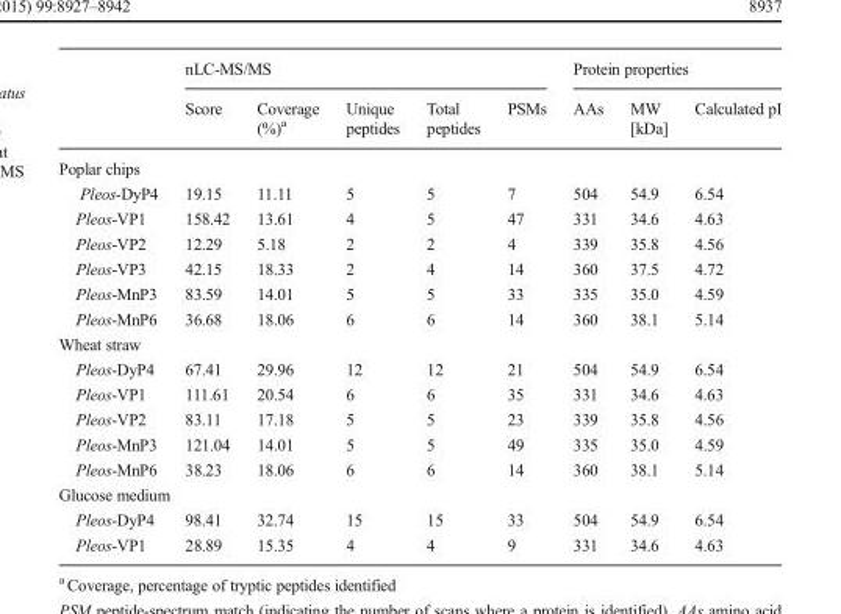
<table><thead><tr><td rowspan="2"></td><td colspan="5">nLC-MS/MS</td><td colspan="3">Protein properties</td></tr><tr><td>Score</td><td>Coverage (%)<sup>a</sup></td><td>Unique peptides</td><td>Total peptides</td><td>PSMs</td><td>AAs</td><td>MW [kDa]</td><td>Calculated pI</td></tr></thead><tbody><tr><td colspan="9">Poplar chips</td></tr><tr><td>Pleos-DyP4</td><td>19.15</td><td>11.11</td><td>5</td><td>5</td><td>7</td><td>504</td><td>54.9</td><td>6.54</td></tr><tr><td>Pleos-VP1</td><td>158.42</td><td>13.61</td><td>4</td><td>5</td><td>47</td><td>331</td><td>34.6</td><td>4.63</td></tr><tr><td>Pleos-VP2</td><td>12.29</td><td>5.18</td><td>2</td><td>2</td><td>4</td><td>339</td><td>35.8</td><td>4.56</td></tr><tr><td>Pleos-VP3</td><td>42.15</td><td>18.33</td><td>2</td><td>4</td><td>14</td><td>360</td><td>37.5</td><td>4.72</td></tr><tr><td>Pleos-MnP3</td><td>83.59</td><td>14.01</td><td>5</td><td>5</td><td>33</td><td>335</td><td>35.0</td><td>4.59</td></tr><tr><td>Pleos-MnP6</td><td>36.68</td><td>18.06</td><td>6</td><td>6</td><td>14</td><td>360</td><td>38.1</td><td>5.14</td></tr><tr><td colspan="9">Wheat straw</td></tr><tr><td>Pleos-DyP4</td><td>67.41</td><td>29.96</td><td>12</td><td>12</td><td>21</td><td>504</td><td>54.9</td><td>6.54</td></tr><tr><td>Pleos-VP1</td><td>111.61</td><td>20.54</td><td>6</td><td>6</td><td>35</td><td>331</td><td>34.6</td><td>4.63</td></tr><tr><td>Pleos-VP2</td><td>83.11</td><td>17.18</td><td>5</td><td>5</td><td>23</td><td>339</td><td>35.8</td><td>4.56</td></tr><tr><td>Pleos-MnP3</td><td>121.04</td><td>14.01</td><td>5</td><td>5</td><td>49</td><td>335</td><td>35.0</td><td>4.59</td></tr><tr><td>Pleos-MnP6</td><td>38.23</td><td>18.06</td><td>6</td><td>6</td><td>14</td><td>360</td><td>38.1</td><td>5.14</td></tr><tr><td colspan="9">Glucose medium</td></tr><tr><td>Pleos-DyP4</td><td>98.41</td><td>32.74</td><td>15</td><td>15</td><td>33</td><td>504</td><td>54.9</td><td>6.54</td></tr><tr><td>Pleos-VP1</td><td>28.89</td><td>15.35</td><td>4</td><td>4</td><td>9</td><td>331</td><td>34.6</td><td>4.63</td></tr></tbody></table>